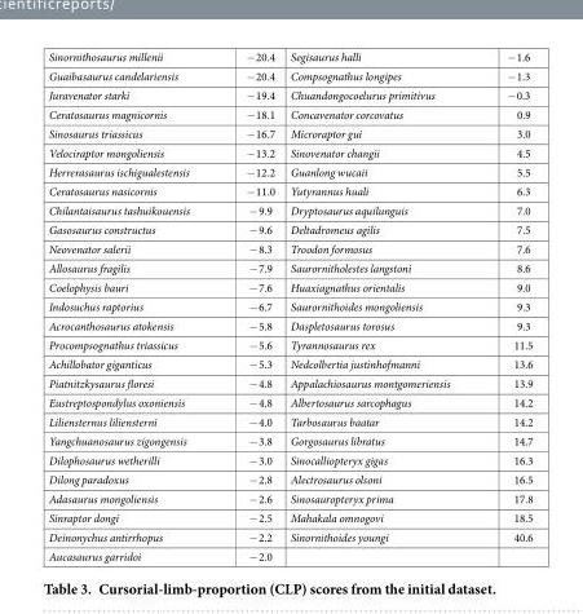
<table><tbody><tr><td>Sinornithosaurus millenii</td><td>− 20.4</td><td>Segisaurus halli</td><td>− 1.6</td></tr><tr><td>Guaibasaurus candelariensis</td><td>− 20.4</td><td>Compsognathus longipes</td><td>− 1.3</td></tr><tr><td>Juravenator starki</td><td>− 19.4</td><td>Chuandongocoelurus primitivus</td><td>− 0.3</td></tr><tr><td>Ceratosaurus magnicornis</td><td>− 18.1</td><td>Concavenator corcovatus</td><td>0.9</td></tr><tr><td>Sinosaurus triassicus</td><td>− 16.7</td><td>Microraptor gui</td><td>3.0</td></tr><tr><td>Velociraptor mongoliensis</td><td>− 13.2</td><td>Sinovenator changii</td><td>4.5</td></tr><tr><td>Herrerasaurus ischigualestensis</td><td>− 12.2</td><td>Guanlong wucaii</td><td>5.5</td></tr><tr><td>Ceratosaurus nasicornis</td><td>− 11.0</td><td>Yutyrannus huali</td><td>6.3</td></tr><tr><td>Chilantaisaurus tashuikouensis</td><td>− 9.9</td><td>Dryptosaurus aquilunguis</td><td>7.0</td></tr><tr><td>Gasosaurus constructus</td><td>− 9.6</td><td>Deltadromeus agilis</td><td>7.5</td></tr><tr><td>Neovenator salerii</td><td>− 8.3</td><td>Troodon formosus</td><td>7.6</td></tr><tr><td>Allosaurus fragilis</td><td>− 7.9</td><td>Saurornitholestes langstoni</td><td>8.6</td></tr><tr><td>Coelophysis bauri</td><td>− 7.6</td><td>Huaxiagnathus orientalis</td><td>9.0</td></tr><tr><td>Indosuchus raptorius</td><td>− 6.7</td><td>Saurornithoides mongoliensis</td><td>9.3</td></tr><tr><td>Acrocanthosaurus atokensis</td><td>− 5.8</td><td>Daspletosaurus torosus</td><td>9.3</td></tr><tr><td>Procompsognathus triassicus</td><td>− 5.6</td><td>Tyrannosaurus rex</td><td>11.5</td></tr><tr><td>Achillobator giganticus</td><td>− 5.3</td><td>Nedcolbertia justinhofmanni</td><td>13.6</td></tr><tr><td>Piatnitzkysaurus floresi</td><td>− 4.8</td><td>Appalachiosaurus montgomeriensis</td><td>13.9</td></tr><tr><td>Eustreptospondylus oxoniensis</td><td>− 4.8</td><td>Albertosaurus sarcophagus</td><td>14.2</td></tr><tr><td>Liliensternus liliensterni</td><td>− 4.0</td><td>Tarbosaurus baatar</td><td>14.2</td></tr><tr><td>Yangchuanosaurus zigongensis</td><td>− 3.8</td><td>Gorgosaurus libratus</td><td>14.7</td></tr><tr><td>Dilophosaurus wetherilli</td><td>− 3.0</td><td>Sinocalliopteryx gigas</td><td>16.3</td></tr><tr><td>Dilong paradoxus</td><td>− 2.8</td><td>Alectrosaurus olsoni</td><td>16.5</td></tr><tr><td>Adasaurus mongoliensis</td><td>− 2.6</td><td>Sinosauropteryx prima</td><td>17.8</td></tr><tr><td>Sinraptor dongi</td><td>− 2.5</td><td>Mahakala omnogovi</td><td>18.5</td></tr><tr><td>Deinonychus antirrhopus</td><td>− 2.2</td><td>Sinornithoides youngi</td><td>40.6</td></tr><tr><td>Aucasaurus garridoi</td><td>− 2.0</td><td></td><td></td></tr></tbody></table>